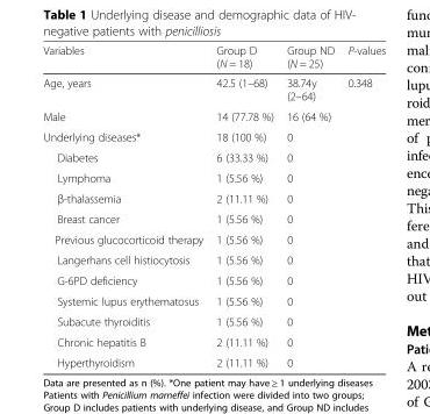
<table><thead><tr><td>Variables</td><td>Group D (N = 18)</td><td>Group ND (N = 25)</td><td>P-values</td></tr></thead><tbody><tr><td>Age, years</td><td>42.5 (1–68)</td><td>38.74y (2–64)</td><td>0.348</td></tr><tr><td>Male</td><td>14 (77.78 %)</td><td>16 (64 %)</td><td></td></tr><tr><td>Underlying diseases*</td><td>18 (100 %)</td><td>0</td><td></td></tr><tr><td>Diabetes</td><td>6 (33.33 %)</td><td>0</td><td></td></tr><tr><td>Lymphoma</td><td>1 (5.56 %)</td><td>0</td><td></td></tr><tr><td>β-thalassemia</td><td>2 (11.11 %)</td><td>0</td><td></td></tr><tr><td>Breast cancer</td><td>1 (5.56 %)</td><td>0</td><td></td></tr><tr><td>Previous glucocorticoid therapy</td><td>1 (5.56 %)</td><td>0</td><td></td></tr><tr><td>Langerhans cell histiocytosis</td><td>1 (5.56 %)</td><td>0</td><td></td></tr><tr><td>G-6PD deficiency</td><td>1 (5.56 %)</td><td>0</td><td></td></tr><tr><td>Systemic lupus erythematosus</td><td>1 (5.56 %)</td><td>0</td><td></td></tr><tr><td>Subacute thyroiditis</td><td>1 (5.56 %)</td><td>0</td><td></td></tr><tr><td>Chronic hepatitis B</td><td>2 (11.11 %)</td><td>0</td><td></td></tr><tr><td>Hyperthyroidism</td><td>2 (11.11 %)</td><td>0</td><td></td></tr></tbody></table>